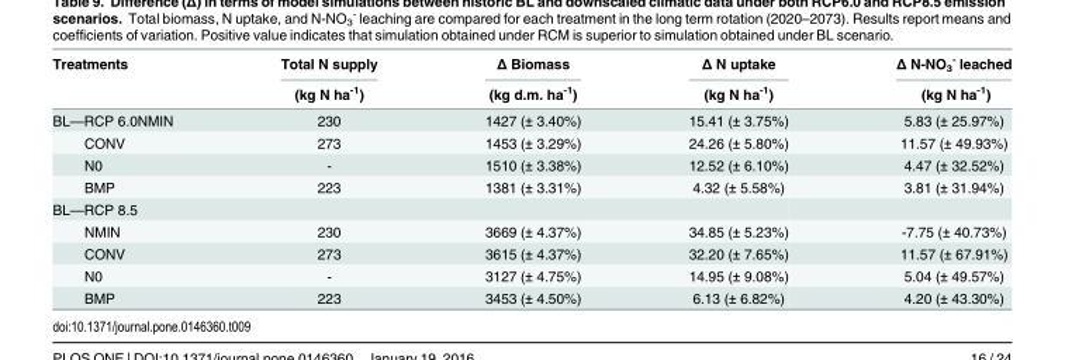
<table><thead><tr><td rowspan="2">Treatments</td><td rowspan="2">Total N supply (kg N ha<sup>-1</sup>)</td><td rowspan="2">Δ Biomass (kg d.m. ha<sup>-1</sup>)</td><td rowspan="2">Δ N uptake (kg N ha<sup>-1</sup>)</td><td rowspan="2">Δ N-NO<sub>3</sub> <sup>-</sup> leached (kg N ha<sup>-1</sup>)</td></tr><tr></tr></thead><tbody><tr><td>BL—RCP 6.0NMIN</td><td>230</td><td>1427 (± 3.40%)</td><td>15.41 (± 3.75%)</td><td>5.83 (± 25.97%)</td></tr><tr><td>CONV</td><td>273</td><td>1453 (± 3.29%)</td><td>24.26 (± 5.80%)</td><td>11.57 (± 49.93%)</td></tr><tr><td>N0</td><td>-</td><td>1510 (± 3.38%)</td><td>12.52 (± 6.10%)</td><td>4.47 (± 32.52%)</td></tr><tr><td>BMP</td><td>223</td><td>1381 (± 3.31%)</td><td>4.32 (± 5.58%)</td><td>3.81 (± 31.94%)</td></tr><tr><td colspan="5">BL—RCP 8.5</td></tr><tr><td>NMIN</td><td>230</td><td>3669 (± 4.37%)</td><td>34.85 (± 5.23%)</td><td>-7.75 (± 40.73%)</td></tr><tr><td>CONV</td><td>273</td><td>3615 (± 4.37%)</td><td>32.20 (± 7.65%)</td><td>11.57 (± 67.91%)</td></tr><tr><td>N0</td><td>-</td><td>3127 (± 4.75%)</td><td>14.95 (± 9.08%)</td><td>5.04 (± 49.57%)</td></tr><tr><td>BMP</td><td>223</td><td>3453 (± 4.50%)</td><td>6.13 (± 6.82%)</td><td>4.20 (± 43.30%)</td></tr></tbody></table>